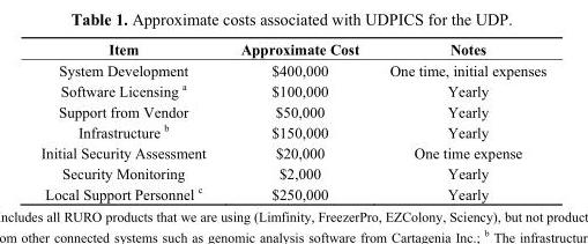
<table><thead><tr><td>Item</td><td>Approximate Cost</td><td>Notes</td></tr></thead><tbody><tr><td>System Development</td><td>$400,000</td><td>One time, initial expenses</td></tr><tr><td>Software Licensing <sup>a</sup></td><td>$100,000</td><td>Yearly</td></tr><tr><td>Support from Vendor</td><td>$50,000</td><td>Yearly</td></tr><tr><td>Infrastructure <sup>b</sup></td><td>$150,000</td><td>Yearly</td></tr><tr><td>Initial Security Assessment</td><td>$20,000</td><td>One time expense</td></tr><tr><td>Security Monitoring</td><td>$2,000</td><td>Yearly</td></tr><tr><td>Local Support Personnel <sup>c</sup></td><td>$250,000</td><td>Yearly</td></tr></tbody></table>